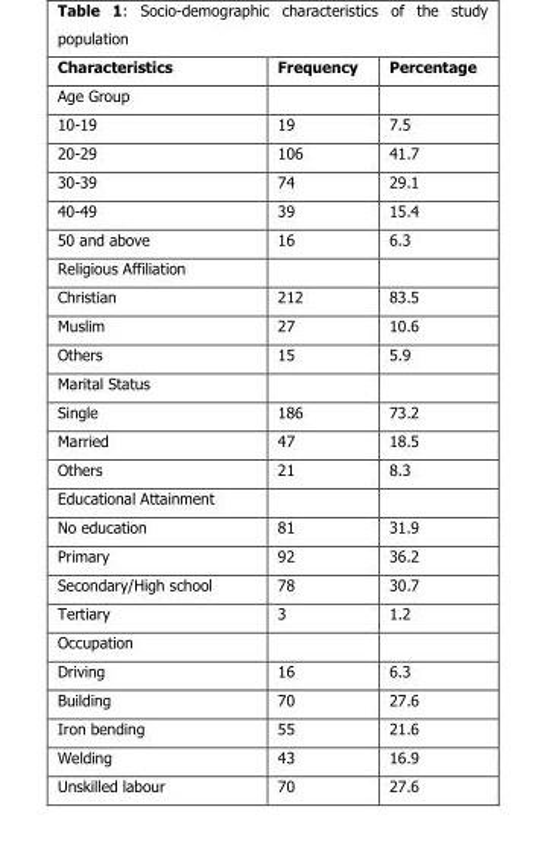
<table><thead><tr><td>Characteristics</td><td>Frequency</td><td>Percentage</td></tr></thead><tbody><tr><td colspan="3">Age Group</td></tr><tr><td>10-19</td><td>19</td><td>7.5</td></tr><tr><td>20-29</td><td>106</td><td>41.7</td></tr><tr><td>30-39</td><td>74</td><td>29.1</td></tr><tr><td>40-49</td><td>39</td><td>15.4</td></tr><tr><td>50 and above</td><td>16</td><td>6.3</td></tr><tr><td colspan="3">Religious Affiliation</td></tr><tr><td>Christian</td><td>212</td><td>83.5</td></tr><tr><td>Muslim</td><td>27</td><td>10.6</td></tr><tr><td>Others</td><td>15</td><td>5.9</td></tr><tr><td colspan="3">Marital Status</td></tr><tr><td>Single</td><td>186</td><td>73.2</td></tr><tr><td>Married</td><td>47</td><td>18.5</td></tr><tr><td>Others</td><td>21</td><td>8.3</td></tr><tr><td colspan="3">Educational Attainment</td></tr><tr><td>No education</td><td>81</td><td>31.9</td></tr><tr><td>Primary</td><td>92</td><td>36.2</td></tr><tr><td>Secondary/High school</td><td>78</td><td>30.7</td></tr><tr><td>Tertiary</td><td>3</td><td>1.2</td></tr><tr><td colspan="3">Occupation</td></tr><tr><td>Driving</td><td>16</td><td>6.3</td></tr><tr><td>Building</td><td>70</td><td>27.6</td></tr><tr><td>Iron bending</td><td>55</td><td>21.6</td></tr><tr><td>Welding</td><td>43</td><td>16.9</td></tr><tr><td>Unskilled labour</td><td>70</td><td>27.6</td></tr></tbody></table>